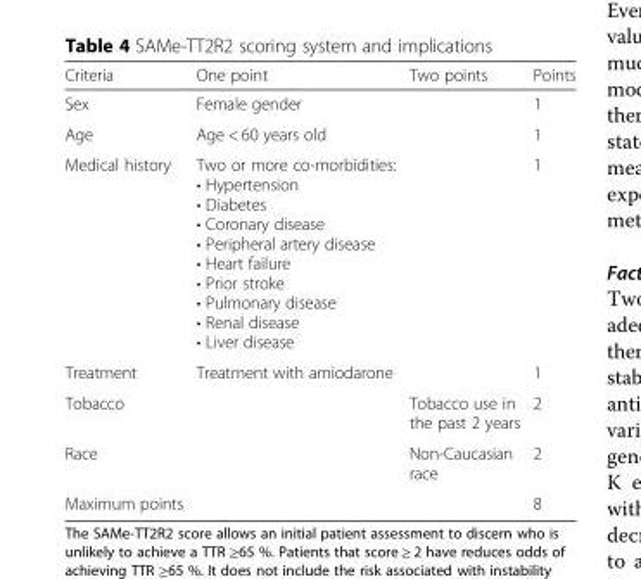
<table><thead><tr><td>Criteria</td><td>One point</td><td>Two points</td><td>Points</td></tr></thead><tbody><tr><td>Sex</td><td>Female gender</td><td></td><td>1</td></tr><tr><td>Age</td><td>Age &lt; 60 years old</td><td></td><td>1</td></tr><tr><td>Medical history</td><td>Two or more co-morbidities: • Hypertension • Diabetes • Coronary disease • Peripheral artery disease • Heart failure • Prior stroke • Pulmonary disease • Renal disease • Liver disease</td><td></td><td>1</td></tr><tr><td>Treatment</td><td>Treatment with amiodarone</td><td></td><td>1</td></tr><tr><td>Tobacco</td><td></td><td>Tobacco use in the past 2 years</td><td>2</td></tr><tr><td>Race</td><td></td><td>Non-Caucasian race</td><td>2</td></tr><tr><td>Maximum points</td><td></td><td></td><td>8</td></tr></tbody></table>